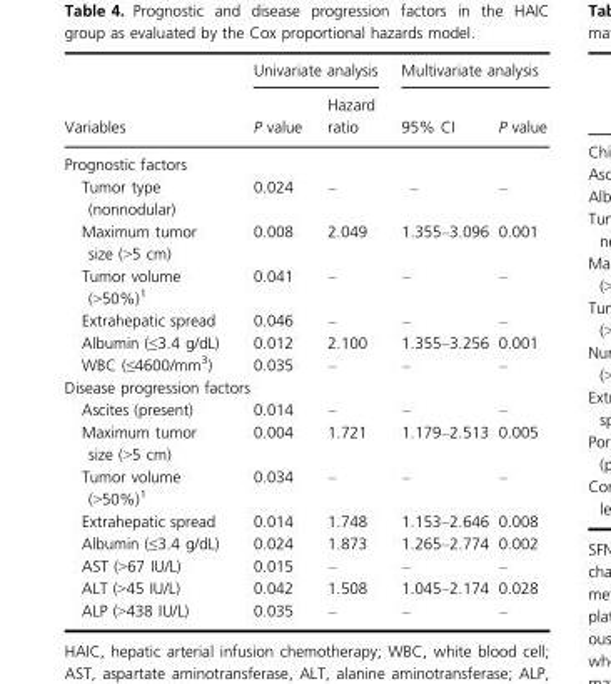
<table><thead><tr><td rowspan="2">Variables</td><td colspan="2">Univariate analysis</td><td colspan="2">Multivariate analysis</td></tr><tr><td>P value</td><td>Hazard ratio</td><td>95% CI</td><td>P value</td></tr></thead><tbody><tr><td colspan="5">Prognostic factors</td></tr><tr><td>Tumor type (nonnodular)</td><td>0.024</td><td>–</td><td>–</td><td>–</td></tr><tr><td>Maximum tumor size (&gt;5 cm)</td><td>0.008</td><td>2.049</td><td>1.355–3.096</td><td>0.001</td></tr><tr><td>Tumor volume (&gt;50%)<sup>1</sup></td><td>0.041</td><td>–</td><td>–</td><td>–</td></tr><tr><td>Extrahepatic spread</td><td>0.046</td><td>–</td><td>–</td><td>–</td></tr><tr><td>Albumin (≤3.4 g/dL)</td><td>0.012</td><td>2.100</td><td>1.355–3.256</td><td>0.001</td></tr><tr><td>WBC (≤4600/mm<sup>3</sup>)</td><td>0.035</td><td>–</td><td>–</td><td>–</td></tr><tr><td colspan="5">Disease progression factors</td></tr><tr><td>Ascites (present)</td><td>0.014</td><td>–</td><td>–</td><td>–</td></tr><tr><td>Maximum tumor size (&gt;5 cm)</td><td>0.004</td><td>1.721</td><td>1.179–2.513</td><td>0.005</td></tr><tr><td>Tumor volume (&gt;50%)<sup>1</sup></td><td>0.034</td><td>–</td><td>–</td><td>–</td></tr><tr><td>Extrahepatic spread</td><td>0.014</td><td>1.748</td><td>1.153–2.646</td><td>0.008</td></tr><tr><td>Albumin (≤3.4 g/dL)</td><td>0.024</td><td>1.873</td><td>1.265–2.774</td><td>0.002</td></tr><tr><td>AST (&gt;67 IU/L)</td><td>0.015</td><td>–</td><td>–</td><td>–</td></tr><tr><td>ALT (&gt;45 IU/L)</td><td>0.042</td><td>1.508</td><td>1.045–2.174</td><td>0.028</td></tr><tr><td>ALP (&gt;438 IU/L)</td><td>0.035</td><td>–</td><td>–</td><td>–</td></tr></tbody></table>